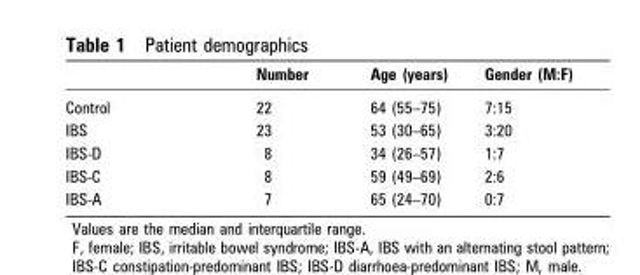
<table><thead><tr><td></td><td>Number</td><td>Age (years)</td><td>Gender (M:F)</td></tr></thead><tbody><tr><td>Control</td><td>22</td><td>64 (55–75)</td><td>7:15</td></tr><tr><td>IBS</td><td>23</td><td>53 (30–65)</td><td>3:20</td></tr><tr><td>IBS-D</td><td>8</td><td>34 (26–57)</td><td>1:7</td></tr><tr><td>IBS-C</td><td>8</td><td>59 (49–69)</td><td>2:6</td></tr><tr><td>IBS-A</td><td>7</td><td>65 (24–70)</td><td>0:7</td></tr></tbody></table>